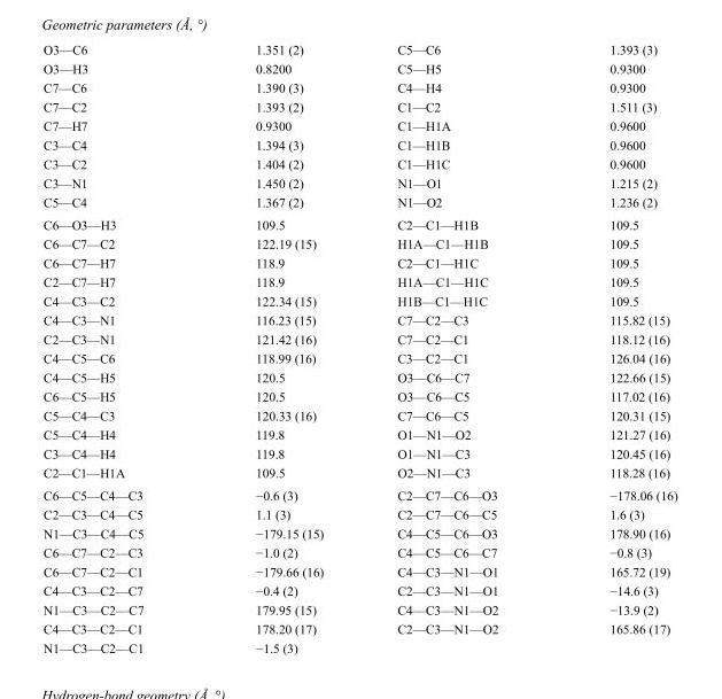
<table><tbody><tr><td>O3—C6</td><td>1.351 (2)</td><td>C5—C6</td><td>1.393 (3)</td></tr><tr><td>O3—H3</td><td>0.8200</td><td>C5—H5</td><td>0.9300</td></tr><tr><td>C7—C6</td><td>1.390 (3)</td><td>C4—H4</td><td>0.9300</td></tr><tr><td>C7—C2</td><td>1.393 (2)</td><td>C1—C2</td><td>1.511 (3)</td></tr><tr><td>C7—H7</td><td>0.9300</td><td>C1—H1A</td><td>0.9600</td></tr><tr><td>C3—C4</td><td>1.394 (3)</td><td>C1—H1B</td><td>0.9600</td></tr><tr><td>C3—C2</td><td>1.404 (2)</td><td>C1—H1C</td><td>0.9600</td></tr><tr><td>C3—N1</td><td>1.450 (2)</td><td>N1—O1</td><td>1.215 (2)</td></tr><tr><td>C5—C4</td><td>1.367 (2)</td><td>N1—O2</td><td>1.236 (2)</td></tr><tr><td>C6—O3—H3</td><td>109.5</td><td>C2—C1—H1B</td><td>109.5</td></tr><tr><td>C6—C7—C2</td><td>122.19 (15)</td><td>H1A—C1—H1B</td><td>109.5</td></tr><tr><td>C6—C7—H7</td><td>118.9</td><td>C2—C1—H1C</td><td>109.5</td></tr><tr><td>C2—C7—H7</td><td>118.9</td><td>H1A—C1—H1C</td><td>109.5</td></tr><tr><td>C4—C3—C2</td><td>122.34 (15)</td><td>H1B—C1—H1C</td><td>109.5</td></tr><tr><td>C4—C3—N1</td><td>116.23 (15)</td><td>C7—C2—C3</td><td>115.82 (15)</td></tr><tr><td>C2—C3—N1</td><td>121.42 (16)</td><td>C7—C2—C1</td><td>118.12 (16)</td></tr><tr><td>C4—C5—C6</td><td>118.99 (16)</td><td>C3—C2—C1</td><td>126.04 (16)</td></tr><tr><td>C4—C5—H5</td><td>120.5</td><td>O3—C6—C7</td><td>122.66 (15)</td></tr><tr><td>C6—C5—H5</td><td>120.5</td><td>O3—C6—C5</td><td>117.02 (16)</td></tr><tr><td>C5—C4—C3</td><td>120.33 (16)</td><td>C7—C6—C5</td><td>120.31 (15)</td></tr><tr><td>C5—C4—H4</td><td>119.8</td><td>O1—N1—O2</td><td>121.27 (16)</td></tr><tr><td>C3—C4—H4</td><td>119.8</td><td>O1—N1—C3</td><td>120.45 (16)</td></tr><tr><td>C2—C1—H1A</td><td>109.5</td><td>O2—N1—C3</td><td>118.28 (16)</td></tr><tr><td>C6—C5—C4—C3</td><td>−0.6 (3)</td><td>C2—C7—C6—O3</td><td>−178.06 (16)</td></tr><tr><td>C2—C3—C4—C5</td><td>1.1 (3)</td><td>C2—C7—C6—C5</td><td>1.6 (3)</td></tr><tr><td>N1—C3—C4—C5</td><td>−179.15 (15)</td><td>C4—C5—C6—O3</td><td>178.90 (16)</td></tr><tr><td>C6—C7—C2—C3</td><td>−1.0 (2)</td><td>C4—C5—C6—C7</td><td>−0.8 (3)</td></tr><tr><td>C6—C7—C2—C1</td><td>−179.66 (16)</td><td>C4—C3—N1—O1</td><td>165.72 (19)</td></tr><tr><td>C4—C3—C2—C7</td><td>−0.4 (2)</td><td>C2—C3—N1—O1</td><td>−14.6 (3)</td></tr><tr><td>N1—C3—C2—C7</td><td>179.95 (15)</td><td>C4—C3—N1—O2</td><td>−13.9 (2)</td></tr><tr><td>C4—C3—C2—C1</td><td>178.20 (17)</td><td>C2—C3—N1—O2</td><td>165.86 (17)</td></tr><tr><td>N1—C3—C2—C1</td><td>−1.5 (3)</td><td></td><td></td></tr></tbody></table>